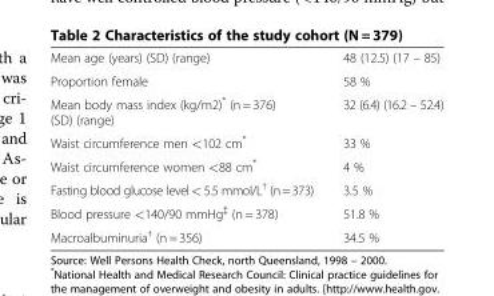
<table><tbody><tr><td>Mean age (years) (SD) (range)</td><td>48 (12.5) (17 – 85)</td></tr><tr><td>Proportion female</td><td>58 %</td></tr><tr><td>Mean body mass index (kg/m2)* (n = 376) (SD) (range)</td><td>32 (6.4) (16.2 – 52.4)</td></tr><tr><td>Waist circumference men &lt;102 cm*</td><td>33 %</td></tr><tr><td>Waist circumference women &lt;88 cm*</td><td>4 %</td></tr><tr><td>Fasting blood glucose level&lt; 5.5 mmol/L<sup>†</sup> (n=373)</td><td>3.5 %</td></tr><tr><td>Blood pressure &lt;140/90 mmHg<sup>‡</sup> (n = 378)</td><td>51.8 %</td></tr><tr><td>Macroalbuminuria<sup>†</sup> (n = 356)</td><td>34.5 %</td></tr></tbody></table>